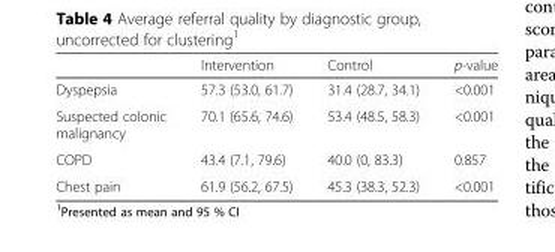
<table><thead><tr><td></td><td>Intervention</td><td>Control</td><td>p-value</td></tr></thead><tbody><tr><td>Dyspepsia</td><td>57.3 (53.0, 61.7)</td><td>31.4 (28.7, 34.1)</td><td>&lt;0.001</td></tr><tr><td>Suspected colonic malignancy</td><td>70.1 (65.6, 74.6)</td><td>53.4 (48.5, 58.3)</td><td>&lt;0.001</td></tr><tr><td>COPD</td><td>43.4 (7.1, 79.6)</td><td>40.0 (0, 83.3)</td><td>0.857</td></tr><tr><td>Chest pain</td><td>61.9 (56.2, 67.5)</td><td>45.3 (38.3, 52.3)</td><td>&lt;0.001</td></tr></tbody></table>